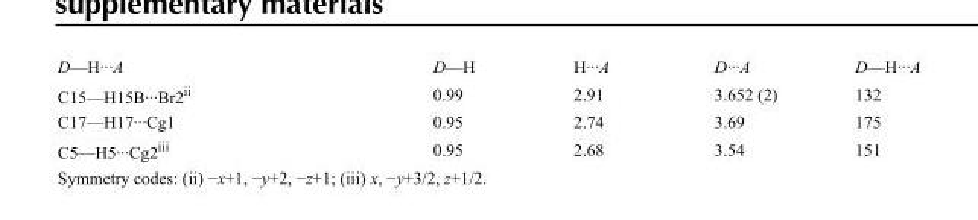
<table><tbody><tr><td>D—H···A</td><td>D—H</td><td>H···A</td><td>D···A</td><td>D—H···A</td></tr><tr><td>C15—H15B···Br2<sup>ii</sup></td><td>0.99</td><td>2.91</td><td>3.652 (2)</td><td>132</td></tr><tr><td>C17—H17···Cg1</td><td>0.95</td><td>2.74</td><td>3.69</td><td>175</td></tr><tr><td>C5—H5···Cg2<sup>iii</sup></td><td>0.95</td><td>2.68</td><td>3.54</td><td>151</td></tr></tbody></table>